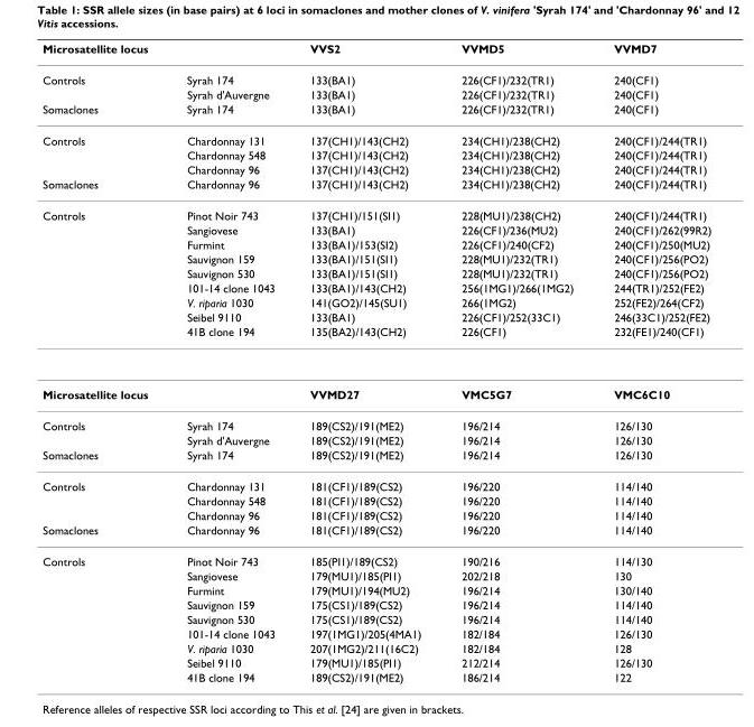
<table><thead><tr><td>Microsatellite locus</td><td></td><td>VVS2</td><td>VVMD5</td><td>VVMD7</td></tr></thead><tbody><tr><td rowspan="2">Controls</td><td>Syrah 174</td><td>133(BA1)</td><td>226(CF1)/232(TR1)</td><td>240(CF1)</td></tr><tr><td>Syrah d&#x27;Auvergne</td><td>133(BA1)</td><td>226(CF1)/232(TR1)</td><td>240(CF1)</td></tr><tr><td>Somaclones</td><td>Syrah 174</td><td>133(BA1)</td><td>226(CF1)/232(TR1)</td><td>240(CF1)</td></tr><tr><td rowspan="3">Controls</td><td>Chardonnay 131</td><td>137(CH1)/143(CH2)</td><td>234(CH1)/238(CH2)</td><td>240(CF1)/244(TR1)</td></tr><tr><td>Chardonnay 548</td><td>137(CH1)/143(CH2)</td><td>234(CH1)/238(CH2)</td><td>240(CF1)/244(TR1)</td></tr><tr><td>Chardonnay 96</td><td>137(CH1)/143(CH2)</td><td>234(CH1)/238(CH2)</td><td>240(CF1)/244(TR1)</td></tr><tr><td>Somaclones</td><td>Chardonnay 96</td><td>137(CH1)/143(CH2)</td><td>234(CH1)/238(CH2)</td><td>240(CF1)/244(TR1)</td></tr><tr><td rowspan="9">Controls</td><td>Pinot Noir 743</td><td>137(CH1)/151(SI1)</td><td>228(MU1)/238(CH2)</td><td>240(CF1)/244(TR1)</td></tr><tr><td>Sangiovese</td><td>133(BA1)</td><td>226(CF1)/236(MU2)</td><td>240(CF1)/262(99R2)</td></tr><tr><td>Furmint</td><td>133(BA1)/153(SI2)</td><td>226(CF1)/240(CF2)</td><td>240(CF1)/250(MU2)</td></tr><tr><td>Sauvignon 159</td><td>133(BA1)/151(SI1)</td><td>228(MU1)/232(TR1)</td><td>240(CF1)/256(PO2)</td></tr><tr><td>Sauvignon 530</td><td>133(BA1)/151(SI1)</td><td>228(MU1)/232(TR1)</td><td>240(CF1)/256(PO2)</td></tr><tr><td>101-14 clone 1043</td><td>133(BA1)/143(CH2)</td><td>256(1MG1)/266(1MG2)</td><td>244(TR1)/252(FE2)</td></tr><tr><td>V. riparia 1030</td><td>141(GO2)/145(SU1)</td><td>266(1MG2)</td><td>252(FE2)/264(CF2)</td></tr><tr><td>Seibel 9110</td><td>133(BA1)</td><td>226(CF1)/252(33C1)</td><td>246(33C1)/252(FE2)</td></tr><tr><td>41B clone 194</td><td>135(BA2)/143(CH2)</td><td>226(CF1)</td><td>232(FE1)/240(CF1)</td></tr><tr><td>Microsatellite locus</td><td></td><td>VVMD27</td><td>VMC5G7</td><td>VMC6C10</td></tr><tr><td rowspan="2">Controls</td><td>Syrah 174</td><td>189(CS2)/191(ME2)</td><td>196/214</td><td>126/130</td></tr><tr><td>Syrah d&#x27;Auvergne</td><td>189(CS2)/191(ME2)</td><td>196/214</td><td>126/130</td></tr><tr><td>Somaclones</td><td>Syrah 174</td><td>189(CS2)/191(ME2)</td><td>196/214</td><td>126/130</td></tr><tr><td rowspan="3">Controls</td><td>Chardonnay 131</td><td>181(CF1)/189(CS2)</td><td>196/220</td><td>114/140</td></tr><tr><td>Chardonnay 548</td><td>181(CF1)/189(CS2)</td><td>196/220</td><td>114/140</td></tr><tr><td>Chardonnay 96</td><td>181(CF1)/189(CS2)</td><td>196/220</td><td>114/140</td></tr><tr><td>Somaclones</td><td>Chardonnay 96</td><td>181(CF1)/189(CS2)</td><td>196/220</td><td>114/140</td></tr><tr><td rowspan="9">Controls</td><td>Pinot Noir 743</td><td>185(PI1)/189(CS2)</td><td>190/216</td><td>114/130</td></tr><tr><td>Sangiovese</td><td>179(MU1)/185(PI1)</td><td>202/218</td><td>130</td></tr><tr><td>Furmint</td><td>179(MU1)/194(MU2)</td><td>196/214</td><td>130/140</td></tr><tr><td>Sauvignon 159</td><td>175(CS1)/189(CS2)</td><td>196/214</td><td>114/140</td></tr><tr><td>Sauvignon 530</td><td>175(CS1)/189(CS2)</td><td>196/214</td><td>114/140</td></tr><tr><td>101-14 clone 1043</td><td>197(1MG1)/205(4MA1)</td><td>182/184</td><td>126/130</td></tr><tr><td>V. riparia 1030</td><td>207(1MG2)/211(16C2)</td><td>182/184</td><td>128</td></tr><tr><td>Seibel 9110</td><td>179(MU1)/185(PI1)</td><td>212/214</td><td>126/130</td></tr><tr><td>41B clone 194</td><td>189(CS2)/191(ME2)</td><td>186/214</td><td>122</td></tr></tbody></table>